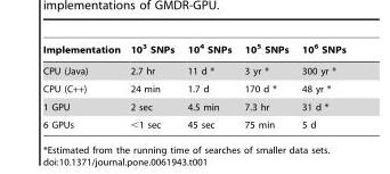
<table><thead><tr><td>Implementation</td><td>10<sup>3</sup> SNPs</td><td>10<sup>4</sup> SNPs</td><td>10<sup>5</sup> SNPs</td><td>10<sup>6</sup> SNPs</td></tr></thead><tbody><tr><td>CPU (Java)</td><td>2.7 hr</td><td>11 d *</td><td>3 yr *</td><td>300 yr *</td></tr><tr><td>CPU (C++)</td><td>24 min</td><td>1.7 d</td><td>170 d *</td><td>48 yr *</td></tr><tr><td>1 GPU</td><td>2 sec</td><td>4.5 min</td><td>7.3 hr</td><td>31 d *</td></tr><tr><td>6 GPUs</td><td>&lt;1 sec</td><td>45 sec</td><td>75 min</td><td>5 d</td></tr></tbody></table>